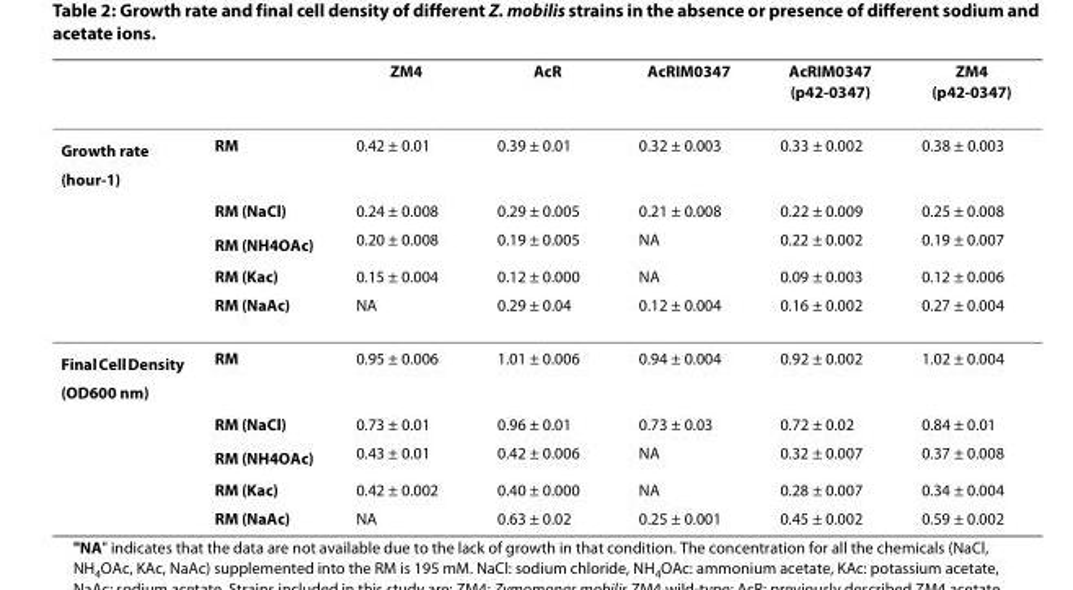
<table><thead><tr><td></td><td></td><td>ZM4</td><td>AcR</td><td>AcRIM0347</td><td>AcRIM0347 (p42-0347)</td><td>ZM4 (p42-0347)</td></tr></thead><tbody><tr><td rowspan="5">Growth rate (hour<sup>-1</sup>)</td><td>RM</td><td>0.42 ± 0.01</td><td>0.39 ± 0.01</td><td>0.32 ± 0.003</td><td>0.33 ± 0.002</td><td>0.38 ± 0.003</td></tr><tr><td>RM (NaCl)</td><td>0.24 ± 0.008</td><td>0.29 ± 0.005</td><td>0.21 ± 0.008</td><td>0.22 ± 0.009</td><td>0.25 ± 0.008</td></tr><tr><td>RM (NH<sub>4</sub>OAc)</td><td>0.20 ± 0.008</td><td>0.19 ± 0.005</td><td>NA</td><td>0.22 ± 0.002</td><td>0.19 ± 0.007</td></tr><tr><td>RM (Kac)</td><td>0.15 ± 0.004</td><td>0.12 ± 0.000</td><td>NA</td><td>0.09 ± 0.003</td><td>0.12 ± 0.006</td></tr><tr><td>RM (NaAc)</td><td>NA</td><td>0.29 ± 0.04</td><td>0.12 ± 0.004</td><td>0.16 ± 0.002</td><td>0.27 ± 0.004</td></tr><tr><td rowspan="5">Final Cell Density (OD<sub>600 nm</sub>)</td><td>RM</td><td>0.95 ± 0.006</td><td>1.01 ± 0.006</td><td>0.94 ± 0.004</td><td>0.92 ± 0.002</td><td>1.02 ± 0.004</td></tr><tr><td>RM (NaCl)</td><td>0.73 ± 0.01</td><td>0.96 ± 0.01</td><td>0.73 ± 0.03</td><td>0.72 ± 0.02</td><td>0.84 ± 0.01</td></tr><tr><td>RM (NH<sub>4</sub>OAc)</td><td>0.43 ± 0.01</td><td>0.42 ± 0.006</td><td>NA</td><td>0.32 ± 0.007</td><td>0.37 ± 0.008</td></tr><tr><td>RM (Kac)</td><td>0.42 ± 0.002</td><td>0.40 ± 0.000</td><td>NA</td><td>0.28 ± 0.007</td><td>0.34 ± 0.004</td></tr><tr><td>RM (NaAc)</td><td>NA</td><td>0.63 ± 0.02</td><td>0.25 ± 0.001</td><td>0.45 ± 0.002</td><td>0.59 ± 0.002</td></tr></tbody></table>